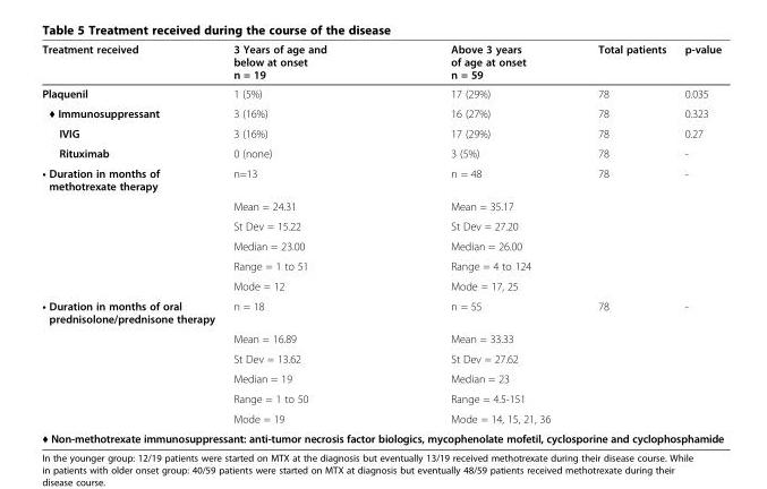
<table><thead><tr><td>Treatment received</td><td>3 Years of age and below at onset n = 19</td><td>Above 3 years of age at onset n = 59</td><td>Total patients</td><td>p-value</td></tr></thead><tbody><tr><td>Plaquenil</td><td>1 (5%)</td><td>17 (29%)</td><td>78</td><td>0.035</td></tr><tr><td>♦ Immunosuppressant</td><td>3 (16%)</td><td>16 (27%)</td><td>78</td><td>0.323</td></tr><tr><td>IVIG</td><td>3 (16%)</td><td>17 (29%)</td><td>78</td><td>0.27</td></tr><tr><td>Rituximab</td><td>0 (none)</td><td>3 (5%)</td><td>78</td><td>-</td></tr><tr><td rowspan="6">• Duration in months of methotrexate therapy</td><td>n=13</td><td>n = 48</td><td>78</td><td>-</td></tr><tr><td>Mean = 24.31</td><td>Mean = 35.17</td><td></td><td></td></tr><tr><td>St Dev = 15.22</td><td>St Dev = 27.20</td><td></td><td></td></tr><tr><td>Median = 23.00</td><td>Median = 26.00</td><td></td><td></td></tr><tr><td>Range = 1 to 51</td><td>Range = 4 to 124</td><td></td><td></td></tr><tr><td>Mode = 12</td><td>Mode = 17, 25</td><td></td><td></td></tr><tr><td rowspan="6">• Duration in months of oral prednisolone/prednisone therapy</td><td>n = 18</td><td>n = 55</td><td>78</td><td>-</td></tr><tr><td>Mean = 16.89</td><td>Mean = 33.33</td><td></td><td></td></tr><tr><td>St Dev = 13.62</td><td>St Dev = 27.62</td><td></td><td></td></tr><tr><td>Median = 19</td><td>Median = 23</td><td></td><td></td></tr><tr><td>Range = 1 to 50</td><td>Range = 4.5-151</td><td></td><td></td></tr><tr><td>Mode = 19</td><td>Mode = 14, 15, 21, 36</td><td></td><td></td></tr><tr><td colspan="5">♦ Non-methotrexate immunosuppressant: anti-tumor necrosis factor biologics, mycophenolate mofetil, cyclosporine and cyclophosphamide</td></tr></tbody></table>